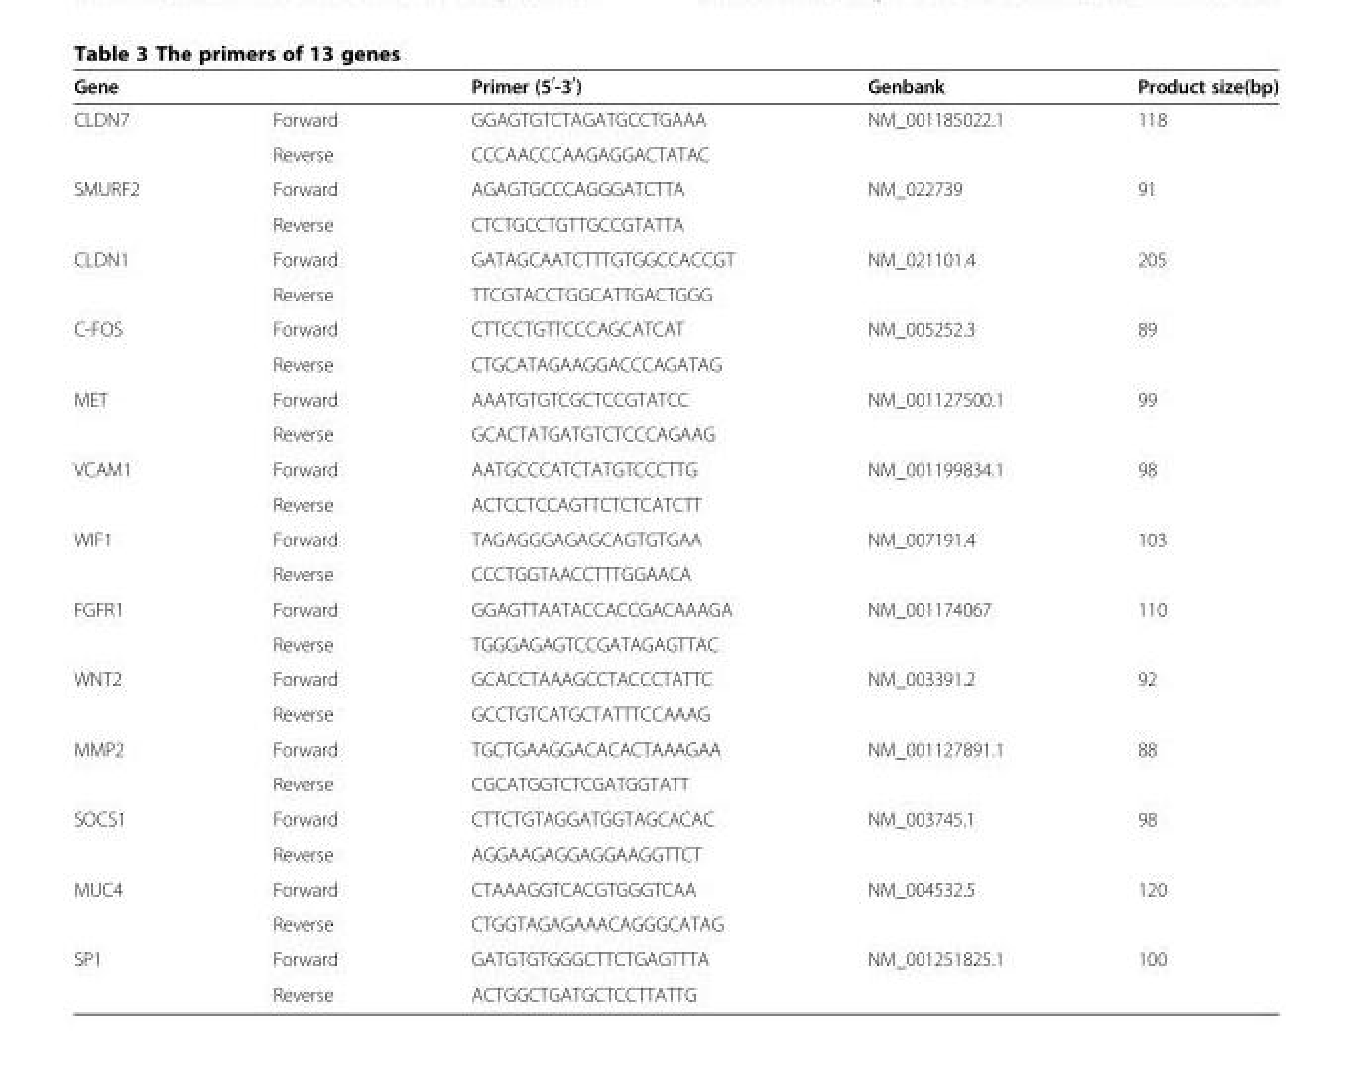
<table><thead><tr><td>Gene</td><td></td><td>Primer (5<sup>′</sup>-3<sup>′</sup>)</td><td>Genbank</td><td>Product size(bp)</td></tr></thead><tbody><tr><td rowspan="2">CLDN7</td><td>Forward</td><td>GGAGTGTCTAGATGCCTGAAA</td><td>NM_001185022.1</td><td>118</td></tr><tr><td>Reverse</td><td>CCCAACCCAAGAGGACTATAC</td><td></td><td></td></tr><tr><td rowspan="2">SMURF2</td><td>Forward</td><td>AGAGTGCCCAGGGATCTTA</td><td>NM_022739</td><td>91</td></tr><tr><td>Reverse</td><td>CTCTGCCTGTTGCCGTATTA</td><td></td><td></td></tr><tr><td rowspan="2">CLDN1</td><td>Forward</td><td>GATAGCAATCTTTGTGGCCACCGT</td><td>NM_021101.4</td><td>205</td></tr><tr><td>Reverse</td><td>TTCGTACCTGGCATTGACTGGG</td><td></td><td></td></tr><tr><td rowspan="2">C-FOS</td><td>Forward</td><td>CTTCCTGTTCCCAGCATCAT</td><td>NM_005252.3</td><td>89</td></tr><tr><td>Reverse</td><td>CTGCATAGAAGGACCCAGATAG</td><td></td><td></td></tr><tr><td rowspan="2">MET</td><td>Forward</td><td>AAATGTGTCGCTCCGTATCC</td><td>NM_001127500.1</td><td>99</td></tr><tr><td>Reverse</td><td>GCACTATGATGTCTCCCAGAAG</td><td></td><td></td></tr><tr><td rowspan="2">VCAM1</td><td>Forward</td><td>AATGCCCATCTATGTCCCTTG</td><td>NM_001199834.1</td><td>98</td></tr><tr><td>Reverse</td><td>ACTCCTCCAGTTCTCTCATCTT</td><td></td><td></td></tr><tr><td rowspan="2">WIF1</td><td>Forward</td><td>TAGAGGGAGAGCAGTGTGAA</td><td>NM_007191.4</td><td>103</td></tr><tr><td>Reverse</td><td>CCCTGGTAACCTTTGGAACA</td><td></td><td></td></tr><tr><td rowspan="2">FGFR1</td><td>Forward</td><td>GGAGTTAATACCACCGACAAAGA</td><td>NM_001174067</td><td>110</td></tr><tr><td>Reverse</td><td>TGGGAGAGTCCGATAGAGTTAC</td><td></td><td></td></tr><tr><td rowspan="2">WNT2</td><td>Forward</td><td>GCACCTAAAGCCTACCCTATTC</td><td>NM_003391.2</td><td>92</td></tr><tr><td>Reverse</td><td>GCCTGTCATGCTATTTCCAAAG</td><td></td><td></td></tr><tr><td rowspan="2">MMP2</td><td>Forward</td><td>TGCTGAAGGACACACTAAAGAA</td><td>NM_001127891.1</td><td>88</td></tr><tr><td>Reverse</td><td>CGCATGGTCTCGATGGTATT</td><td></td><td></td></tr><tr><td rowspan="2">SOCS1</td><td>Forward</td><td>CTTCTGTAGGATGGTAGCACAC</td><td>NM_003745.1</td><td>98</td></tr><tr><td>Reverse</td><td>AGGAAGAGGAGGAAGGTTCT</td><td></td><td></td></tr><tr><td rowspan="2">MUC4</td><td>Forward</td><td>CTAAAGGTCACGTGGGTCAA</td><td>NM_004532.5</td><td>120</td></tr><tr><td>Reverse</td><td>CTGGTAGAGAAACAGGGCATAG</td><td></td><td></td></tr><tr><td rowspan="2">SP1</td><td>Forward</td><td>GATGTGTGGGCTTCTGAGTTTA</td><td>NM_001251825.1</td><td>100</td></tr><tr><td>Reverse</td><td>ACTGGCTGATGCTCCTTATTG</td><td></td><td></td></tr></tbody></table>